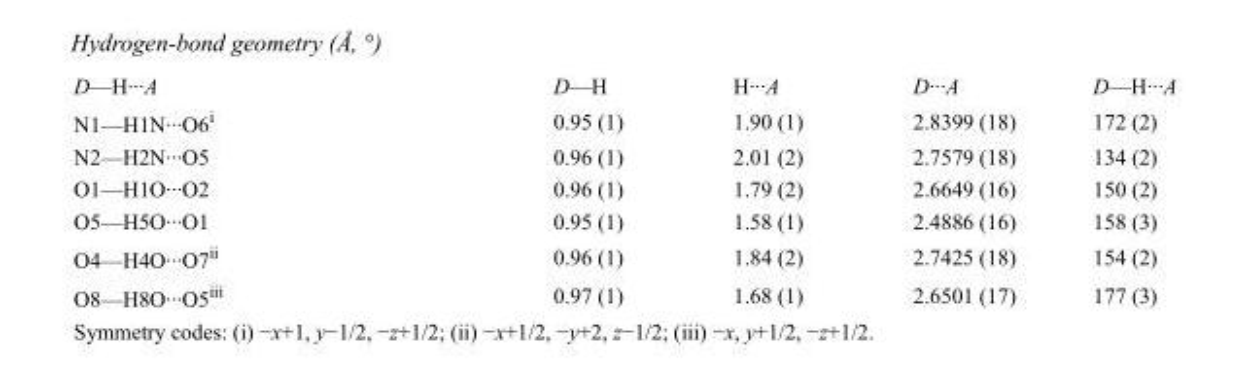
<table><tbody><tr><td>D—H···A</td><td>D—H</td><td>H···A</td><td>D···A</td><td>D—H···A</td></tr><tr><td>N1—H1N···O6<sup>i</sup></td><td>0.95 (1)</td><td>1.90 (1)</td><td>2.8399 (18)</td><td>172 (2)</td></tr><tr><td>N2—H2N···O5</td><td>0.96 (1)</td><td>2.01 (2)</td><td>2.7579 (18)</td><td>134 (2)</td></tr><tr><td>O1—H1O···O2</td><td>0.96 (1)</td><td>1.79 (2)</td><td>2.6649 (16)</td><td>150 (2)</td></tr><tr><td>O5—H5O···O1</td><td>0.95 (1)</td><td>1.58 (1)</td><td>2.4886 (16)</td><td>158 (3)</td></tr><tr><td>O4—H4O···O7<sup>ii</sup></td><td>0.96 (1)</td><td>1.84 (2)</td><td>2.7425 (18)</td><td>154 (2)</td></tr><tr><td>O8—H8O···O5<sup>iii</sup></td><td>0.97 (1)</td><td>1.68 (1)</td><td>2.6501 (17)</td><td>177 (3)</td></tr></tbody></table>